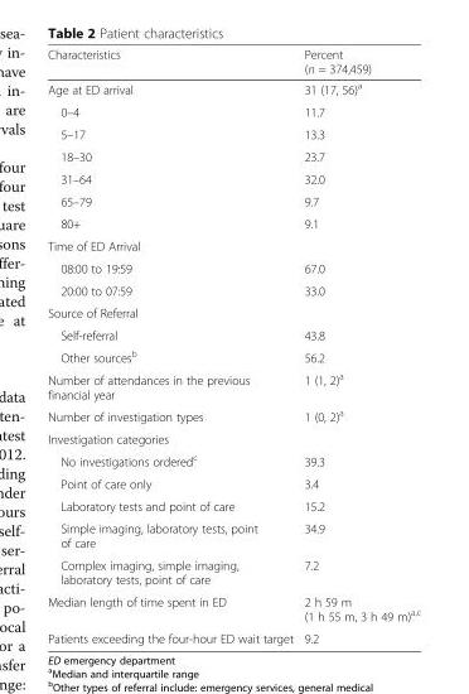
<table><thead><tr><td>Characteristics</td><td>Percent (n = 374,459)</td></tr></thead><tbody><tr><td>Age at ED arrival</td><td>31 (17, 56)<sup>a</sup></td></tr><tr><td>0–4</td><td>11.7</td></tr><tr><td>5–17</td><td>13.3</td></tr><tr><td>18–30</td><td>23.7</td></tr><tr><td>31–64</td><td>32.0</td></tr><tr><td>65–79</td><td>9.7</td></tr><tr><td>80+</td><td>9.1</td></tr><tr><td colspan="2">Time of ED Arrival</td></tr><tr><td>08:00 to 19:59</td><td>67.0</td></tr><tr><td>20:00 to 07:59</td><td>33.0</td></tr><tr><td colspan="2">Source of Referral</td></tr><tr><td>Self-referral</td><td>43.8</td></tr><tr><td>Other sources<sup>b</sup></td><td>56.2</td></tr><tr><td>Number of attendances in the previous financial year</td><td>1 (1, 2)<sup>a</sup></td></tr><tr><td>Number of investigation types</td><td>1 (0, 2)<sup>a</sup></td></tr><tr><td colspan="2">Investigation categories</td></tr><tr><td>No investigations ordered<sup>c</sup></td><td>39.3</td></tr><tr><td>Point of care only</td><td>3.4</td></tr><tr><td>Laboratory tests and point of care</td><td>15.2</td></tr><tr><td>Simple imaging, laboratory tests, point of care</td><td>34.9</td></tr><tr><td>Complex imaging, simple imaging, laboratory tests, point of care</td><td>7.2</td></tr><tr><td>Median length of time spent in ED</td><td>2 h 59 m (1 h 55 m, 3 h 49 m)<sup>a,c</sup></td></tr><tr><td>Patients exceeding the four-hour ED wait target</td><td>9.2</td></tr></tbody></table>